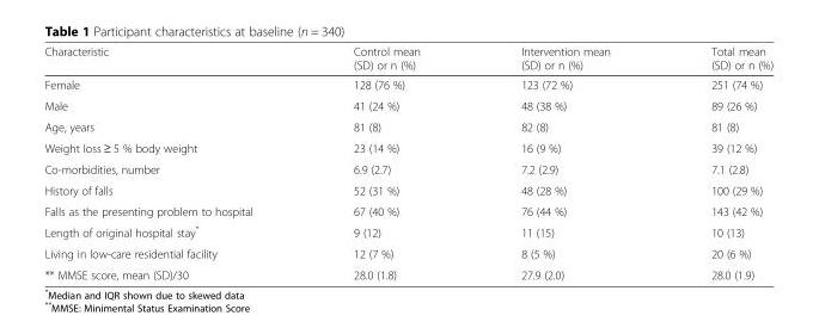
<table><thead><tr><td>Characteristic</td><td>Control mean (SD) or n (%)</td><td>Intervention mean (SD) or n (%)</td><td>Total mean (SD) or n (%)</td></tr></thead><tbody><tr><td>Female</td><td>128 (76 %)</td><td>123 (72 %)</td><td>251 (74 %)</td></tr><tr><td>Male</td><td>41 (24 %)</td><td>48 (38 %)</td><td>89 (26 %)</td></tr><tr><td>Age, years</td><td>81 (8)</td><td>82 (8)</td><td>81 (8)</td></tr><tr><td>Weight loss ≥ 5 % body weight</td><td>23 (14 %)</td><td>16 (9 %)</td><td>39 (12 %)</td></tr><tr><td>Co-morbidities, number</td><td>6.9 (2.7)</td><td>7.2 (2.9)</td><td>7.1 (2.8)</td></tr><tr><td>History of falls</td><td>52 (31 %)</td><td>48 (28 %)</td><td>100 (29 %)</td></tr><tr><td>Falls as the presenting problem to hospital</td><td>67 (40 %)</td><td>76 (44 %)</td><td>143 (42 %)</td></tr><tr><td>Length of original hospital stay*</td><td>9 (12)</td><td>11 (15)</td><td>10 (13)</td></tr><tr><td>Living in low-care residential facility</td><td>12 (7 %)</td><td>8 (5 %)</td><td>20 (6 %)</td></tr><tr><td>** MMSE score, mean (SD)/30</td><td>28.0 (1.8)</td><td>27.9 (2.0)</td><td>28.0 (1.9)</td></tr></tbody></table>